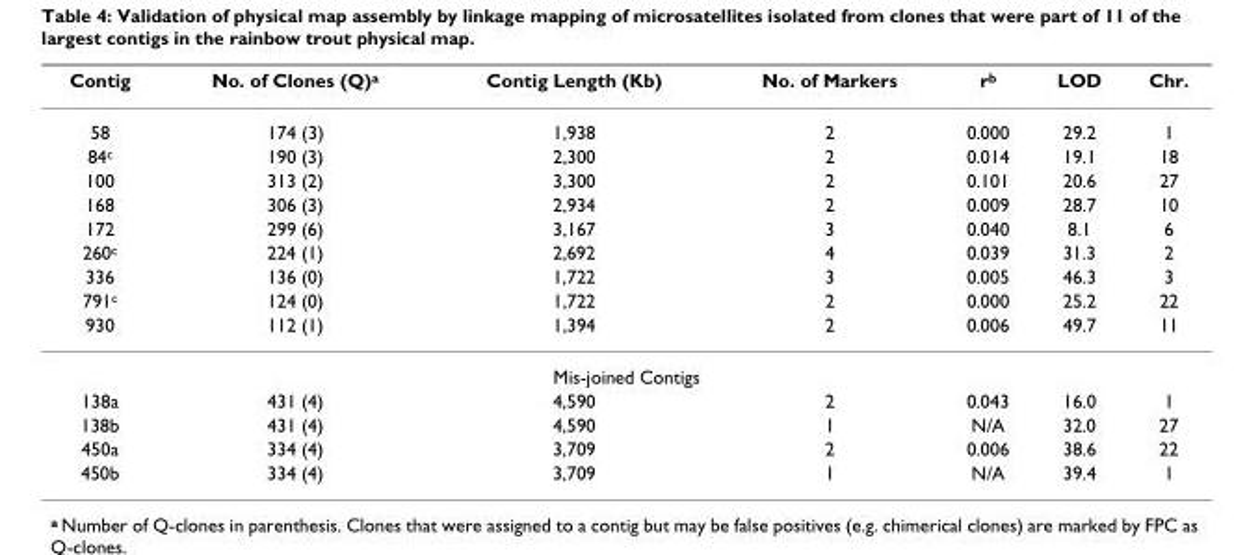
<table><thead><tr><td>Contig</td><td>No. of Clones (Q)<sup>a</sup></td><td>Contig Length (Kb)</td><td>No. of Markers</td><td>r<sup>b</sup></td><td>LOD</td><td>Chr.</td></tr></thead><tbody><tr><td>58</td><td>174 (3)</td><td>1,938</td><td>2</td><td>0.000</td><td>29.2</td><td>1</td></tr><tr><td>84<sup>c</sup></td><td>190 (3)</td><td>2,300</td><td>2</td><td>0.014</td><td>19.1</td><td>18</td></tr><tr><td>100</td><td>313 (2)</td><td>3,300</td><td>2</td><td>0.101</td><td>20.6</td><td>27</td></tr><tr><td>168</td><td>306 (3)</td><td>2,934</td><td>2</td><td>0.009</td><td>28.7</td><td>10</td></tr><tr><td>172</td><td>299 (6)</td><td>3,167</td><td>3</td><td>0.040</td><td>8.1</td><td>6</td></tr><tr><td>260<sup>c</sup></td><td>224 (1)</td><td>2,692</td><td>4</td><td>0.039</td><td>31.3</td><td>2</td></tr><tr><td>336</td><td>136 (0)</td><td>1,722</td><td>3</td><td>0.005</td><td>46.3</td><td>3</td></tr><tr><td>791<sup>c</sup></td><td>124 (0)</td><td>1,722</td><td>2</td><td>0.000</td><td>25.2</td><td>22</td></tr><tr><td>930</td><td>112 (1)</td><td>1,394</td><td>2</td><td>0.006</td><td>49.7</td><td>11</td></tr><tr><td colspan="7">Mis-joined Contigs</td></tr><tr><td>138a</td><td>431 (4)</td><td>4,590</td><td>2</td><td>0.043</td><td>16.0</td><td>1</td></tr><tr><td>138b</td><td>431 (4)</td><td>4,590</td><td>1</td><td>N/A</td><td>32.0</td><td>27</td></tr><tr><td>450a</td><td>334 (4)</td><td>3,709</td><td>2</td><td>0.006</td><td>38.6</td><td>22</td></tr><tr><td>450b</td><td>334 (4)</td><td>3,709</td><td>1</td><td>N/A</td><td>39.4</td><td>1</td></tr></tbody></table>